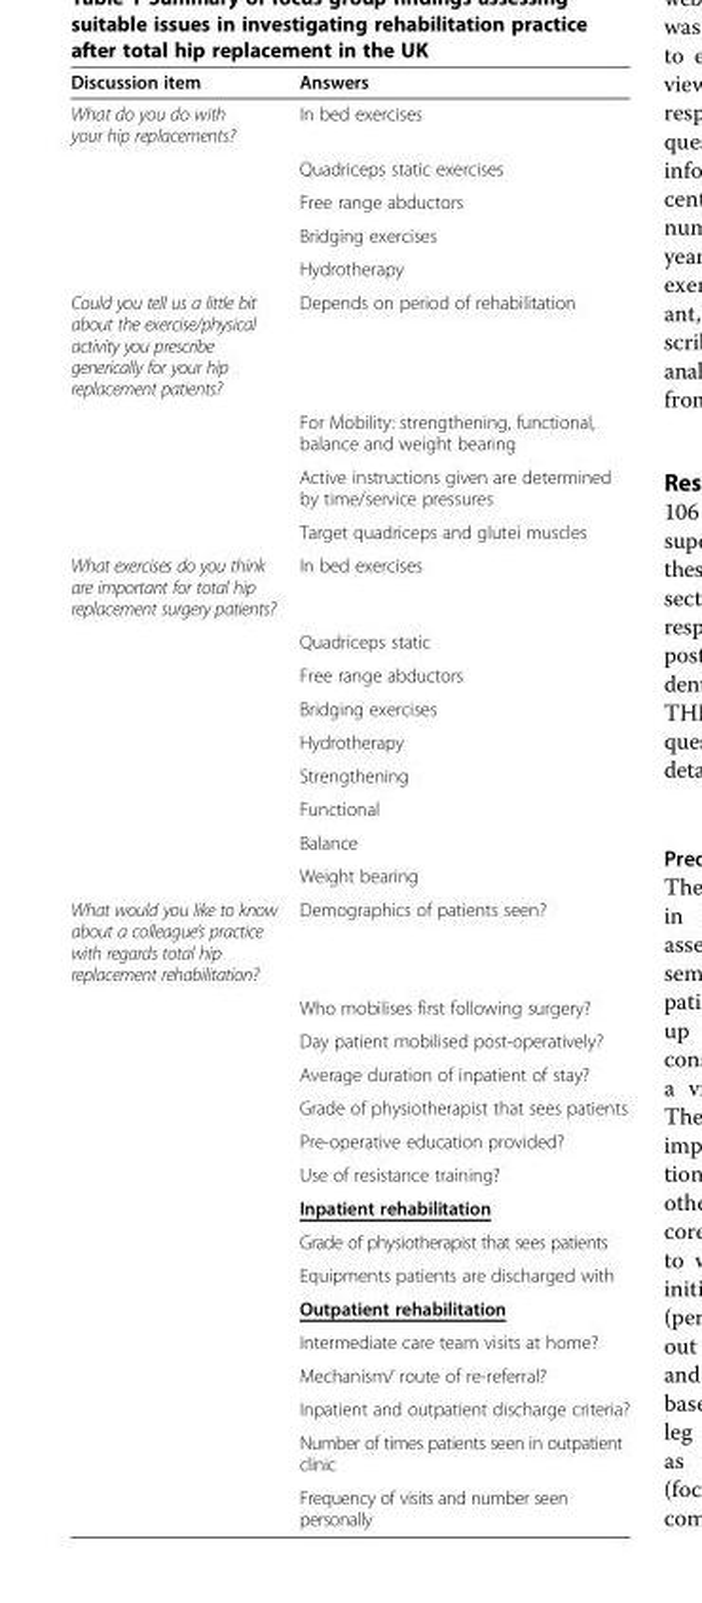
<table><thead><tr><td>Discussion item</td><td>Answers</td></tr></thead><tbody><tr><td rowspan="5">What do you do with your hip replacements?</td><td>In bed exercises</td></tr><tr><td>Quadriceps static exercises</td></tr><tr><td>Free range abductors</td></tr><tr><td>Bridging exercises</td></tr><tr><td>Hydrotherapy</td></tr><tr><td rowspan="4">Could you tell us a little bit about the exercise/physical activity you prescribe generically for your hip replacement patients?</td><td>Depends on period of rehabilitation</td></tr><tr><td>For Mobility: strengthening, functional, balance and weight bearing</td></tr><tr><td>Active instructions given are determined by time/service pressures</td></tr><tr><td>Target quadriceps and glutei muscles</td></tr><tr><td rowspan="9">What exercises do you think are important for total hip replacement surgery patients?</td><td>In bed exercises</td></tr><tr><td>Quadriceps static</td></tr><tr><td>Free range abductors</td></tr><tr><td>Bridging exercises</td></tr><tr><td>Hydrotherapy</td></tr><tr><td>Strengthening</td></tr><tr><td>Functional</td></tr><tr><td>Balance</td></tr><tr><td>Weight bearing</td></tr><tr><td rowspan="16">What would you like to know about a colleague’s practice with regards total hip replacement rehabilitation?</td><td>Demographics of patients seen?</td></tr><tr><td>Who mobilises first following surgery?</td></tr><tr><td>Day patient mobilised post-operatively?</td></tr><tr><td>Average duration of inpatient of stay?</td></tr><tr><td>Grade of physiotherapist that sees patients</td></tr><tr><td>Pre-operative education provided?</td></tr><tr><td>Use of resistance training?</td></tr><tr><td>Inpatient rehabilitation</td></tr><tr><td>Grade of physiotherapist that sees patients</td></tr><tr><td>Equipments patients are discharged with</td></tr><tr><td>Outpatient rehabilitation</td></tr><tr><td>Intermediate care team visits at home?</td></tr><tr><td>Mechanism/ route of re-referral?</td></tr><tr><td>Inpatient and outpatient discharge criteria?</td></tr><tr><td>Number of times patients seen in outpatient clinic</td></tr><tr><td>Frequency of visits and number seen personally</td></tr></tbody></table>